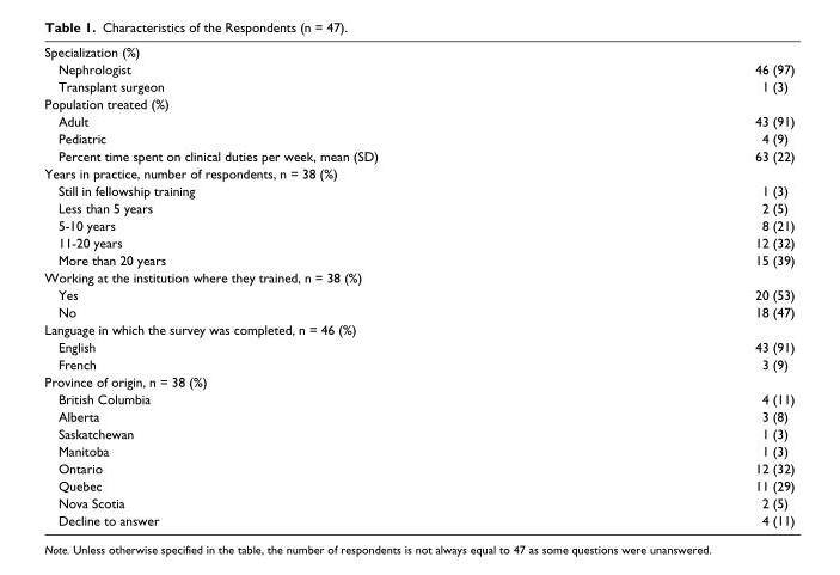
<table><tbody><tr><td colspan="2">Specialization (%)</td></tr><tr><td>Nephrologist</td><td>46 (97)</td></tr><tr><td>Transplant surgeon</td><td>1 (3)</td></tr><tr><td colspan="2">Population treated (%)</td></tr><tr><td>Adult</td><td>43 (91)</td></tr><tr><td>Pediatric</td><td>4 (9)</td></tr><tr><td>Percent time spent on clinical duties per week, mean (SD)</td><td>63 (22)</td></tr><tr><td colspan="2">Years in practice, number of respondents, n = 38 (%)</td></tr><tr><td>Still in fellowship training</td><td>1 (3)</td></tr><tr><td>Less than 5 years</td><td>2 (5)</td></tr><tr><td>5-10 years</td><td>8 (21)</td></tr><tr><td>11-20 years</td><td>12 (32)</td></tr><tr><td>More than 20 years</td><td>15 (39)</td></tr><tr><td colspan="2">Working at the institution where they trained, n = 38 (%)</td></tr><tr><td>Yes</td><td>20 (53)</td></tr><tr><td>No</td><td>18 (47)</td></tr><tr><td colspan="2">Language in which the survey was completed, n = 46 (%)</td></tr><tr><td>English</td><td>43 (91)</td></tr><tr><td>French</td><td>3 (9)</td></tr><tr><td colspan="2">Province of origin, n = 38 (%)</td></tr><tr><td>British Columbia</td><td>4 (11)</td></tr><tr><td>Alberta</td><td>3 (8)</td></tr><tr><td>Saskatchewan</td><td>1 (3)</td></tr><tr><td>Manitoba</td><td>1 (3)</td></tr><tr><td>Ontario</td><td>12 (32)</td></tr><tr><td>Quebec</td><td>11 (29)</td></tr><tr><td>Nova Scotia</td><td>2 (5)</td></tr><tr><td>Decline to answer</td><td>4 (11)</td></tr></tbody></table>